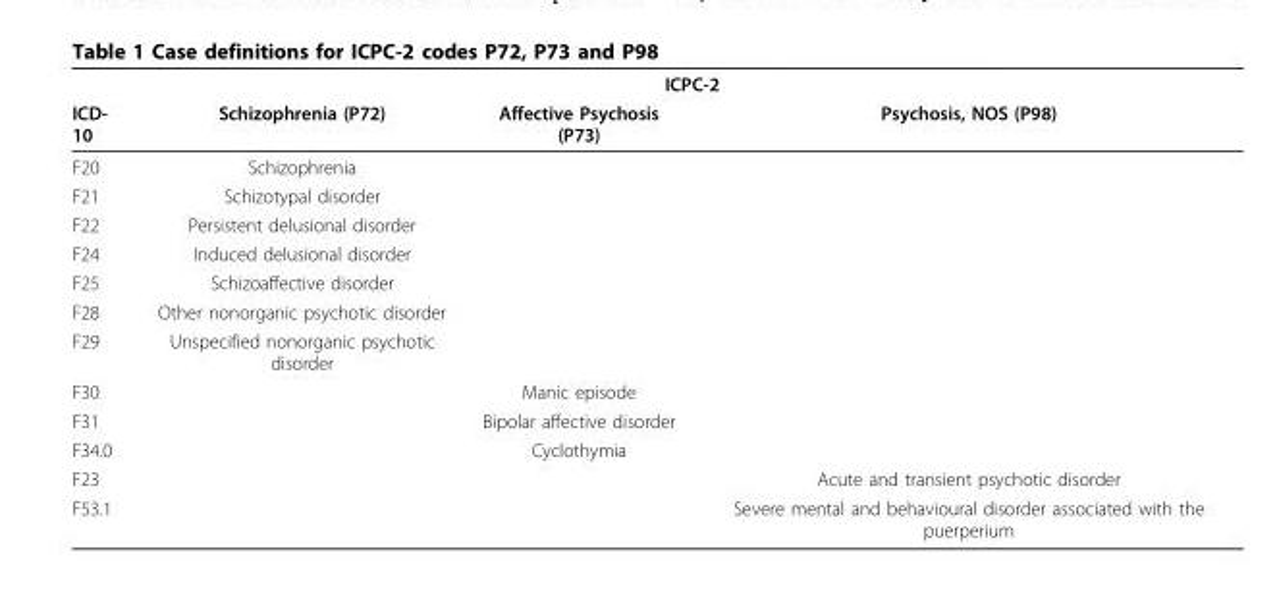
<table><thead><tr><td rowspan="2">ICD- 10</td><td colspan="3">ICPC-2</td></tr><tr><td>Schizophrenia (P72)</td><td>Affective Psychosis (P73)</td><td>Psychosis, NOS (P98)</td></tr></thead><tbody><tr><td>F20</td><td>Schizophrenia</td><td></td><td></td></tr><tr><td>F21</td><td>Schizotypal disorder</td><td></td><td></td></tr><tr><td>F22</td><td>Persistent delusional disorder</td><td></td><td></td></tr><tr><td>F24</td><td>Induced delusional disorder</td><td></td><td></td></tr><tr><td>F25</td><td>Schizoaffective disorder</td><td></td><td></td></tr><tr><td>F28</td><td>Other nonorganic psychotic disorder</td><td></td><td></td></tr><tr><td>F29</td><td>Unspecified nonorganic psychotic disorder</td><td></td><td></td></tr><tr><td>F30</td><td></td><td>Manic episode</td><td></td></tr><tr><td>F31</td><td></td><td>Bipolar affective disorder</td><td></td></tr><tr><td>F34.0</td><td></td><td>Cyclothymia</td><td></td></tr><tr><td>F23</td><td></td><td></td><td>Acute and transient psychotic disorder</td></tr><tr><td>F53.1</td><td></td><td></td><td>Severe mental and behavioural disorder associated with the puerperium</td></tr></tbody></table>